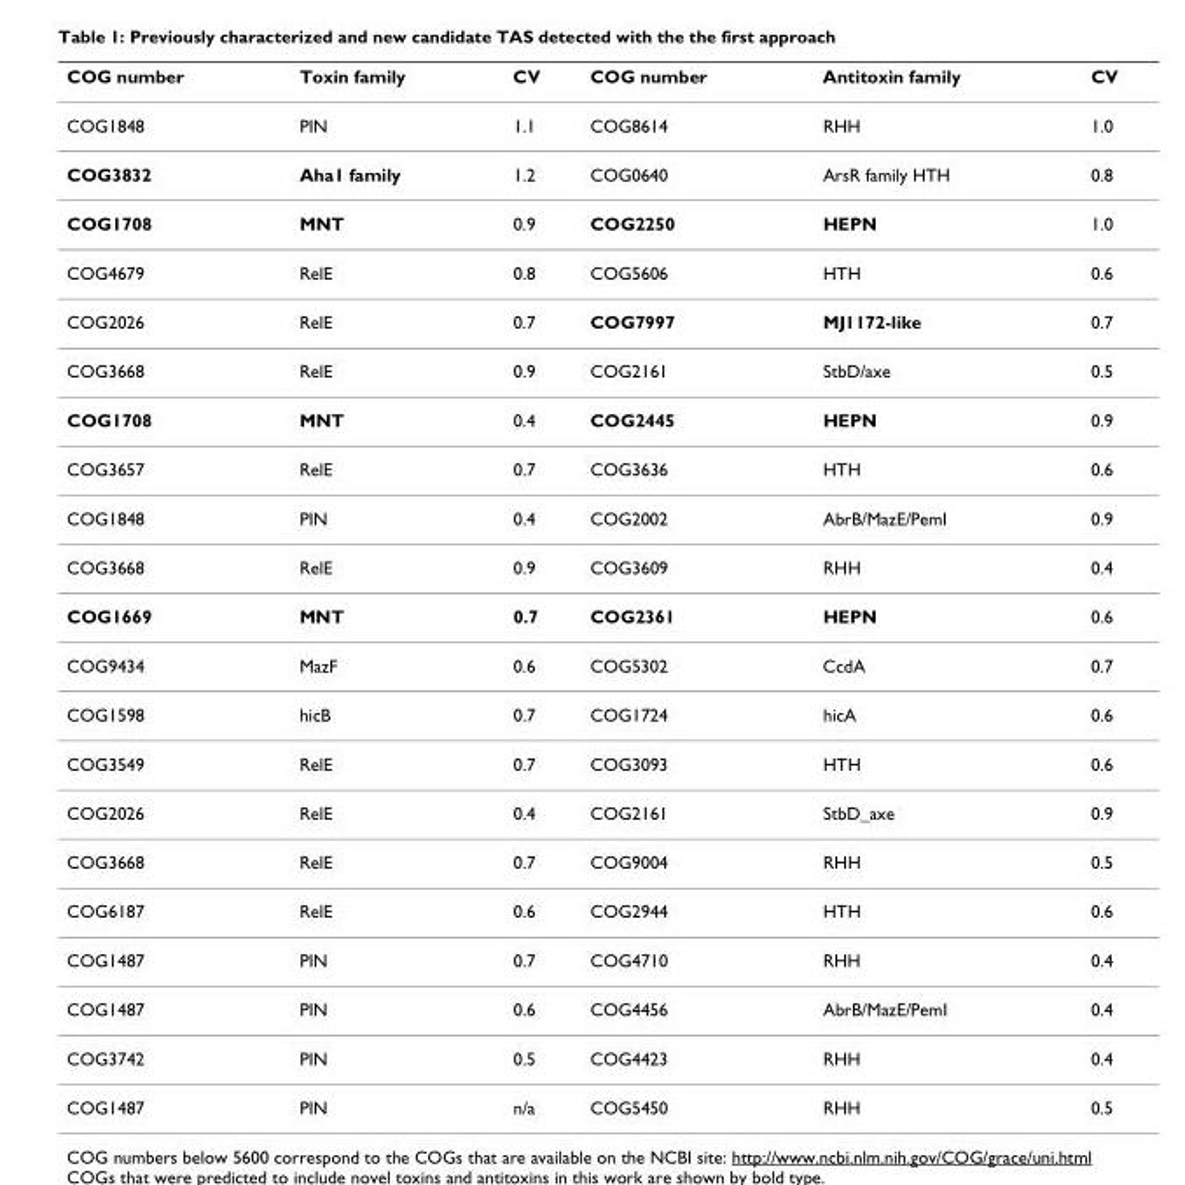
<table><thead><tr><td>COG number</td><td>Toxin family</td><td>CV</td><td>COG number</td><td>Antitoxin family</td><td>CV</td></tr></thead><tbody><tr><td>COG1848</td><td>PIN</td><td>1.1</td><td>COG8614</td><td>RHH</td><td>1.0</td></tr><tr><td>COG3832</td><td>Aha1 family</td><td>1.2</td><td>COG0640</td><td>ArsR family HTH</td><td>0.8</td></tr><tr><td>COG1708</td><td>MNT</td><td>0.9</td><td>COG2250</td><td>HEPN</td><td>1.0</td></tr><tr><td>COG4679</td><td>RelE</td><td>0.8</td><td>COG5606</td><td>HTH</td><td>0.6</td></tr><tr><td>COG2026</td><td>RelE</td><td>0.7</td><td>COG7997</td><td>MJ1172-like</td><td>0.7</td></tr><tr><td>COG3668</td><td>RelE</td><td>0.9</td><td>COG2161</td><td>StbD/axe</td><td>0.5</td></tr><tr><td>COG1708</td><td>MNT</td><td>0.4</td><td>COG2445</td><td>HEPN</td><td>0.9</td></tr><tr><td>COG3657</td><td>RelE</td><td>0.7</td><td>COG3636</td><td>HTH</td><td>0.6</td></tr><tr><td>COG1848</td><td>PIN</td><td>0.4</td><td>COG2002</td><td>AbrB/MazE/PemI</td><td>0.9</td></tr><tr><td>COG3668</td><td>RelE</td><td>0.9</td><td>COG3609</td><td>RHH</td><td>0.4</td></tr><tr><td>COG1669</td><td>MNT</td><td>0.7</td><td>COG2361</td><td>HEPN</td><td>0.6</td></tr><tr><td>COG9434</td><td>MazF</td><td>0.6</td><td>COG5302</td><td>CcdA</td><td>0.7</td></tr><tr><td>COG1598</td><td>hicB</td><td>0.7</td><td>COG1724</td><td>hicA</td><td>0.6</td></tr><tr><td>COG3549</td><td>RelE</td><td>0.7</td><td>COG3093</td><td>HTH</td><td>0.6</td></tr><tr><td>COG2026</td><td>RelE</td><td>0.4</td><td>COG2161</td><td>StbD_axe</td><td>0.9</td></tr><tr><td>COG3668</td><td>RelE</td><td>0.7</td><td>COG9004</td><td>RHH</td><td>0.5</td></tr><tr><td>COG6187</td><td>RelE</td><td>0.6</td><td>COG2944</td><td>HTH</td><td>0.6</td></tr><tr><td>COG1487</td><td>PIN</td><td>0.7</td><td>COG4710</td><td>RHH</td><td>0.4</td></tr><tr><td>COG1487</td><td>PIN</td><td>0.6</td><td>COG4456</td><td>AbrB/MazE/PemI</td><td>0.4</td></tr><tr><td>COG3742</td><td>PIN</td><td>0.5</td><td>COG4423</td><td>RHH</td><td>0.4</td></tr><tr><td>COG1487</td><td>PIN</td><td>n/a</td><td>COG5450</td><td>RHH</td><td>0.5</td></tr></tbody></table>